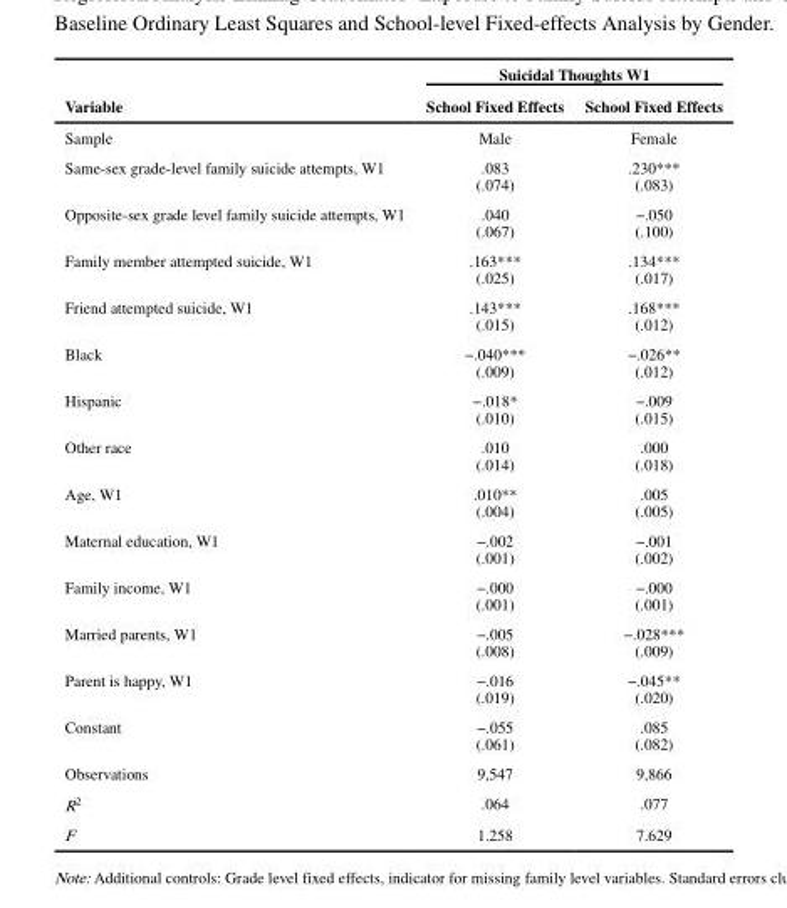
<table><thead><tr><td rowspan="2">Variable</td><td colspan="2">Suicidal Thoughts W1</td></tr><tr><td>School Fixed Effects</td><td>School Fixed Effects</td></tr></thead><tbody><tr><td>Sample</td><td>Male</td><td>Female</td></tr><tr><td>Same-sex grade-level family suicide attempts, W1</td><td>.083 (.074)</td><td>.230*** (.083)</td></tr><tr><td>Opposite-sex grade level family suicide attempts, W1</td><td>.040 (.067)</td><td>−.050 (.100)</td></tr><tr><td>Family member attempted suicide, W1</td><td>.163*** (.025)</td><td>.134*** (.017)</td></tr><tr><td>Friend attempted suicide, W1</td><td>.143*** (.015)</td><td>.168*** (.012)</td></tr><tr><td>Black</td><td>−.040*** (.009)</td><td>−.026** (.012)</td></tr><tr><td>Hispanic</td><td>−.018* (.010)</td><td>−.009 (.015)</td></tr><tr><td>Other race</td><td>.010 (.014)</td><td>.000 (.018)</td></tr><tr><td>Age, W1</td><td>.010** (.004)</td><td>.005 (.005)</td></tr><tr><td>Maternal education, W1</td><td>−.002 (.001)</td><td>−.001 (.002)</td></tr><tr><td>Family income, W1</td><td>−.000 (.001)</td><td>−.000 (.001)</td></tr><tr><td>Married parents, W1</td><td>−.005 (.008)</td><td>−.028*** (.009)</td></tr><tr><td>Parent is happy, W1</td><td>−.016 (.019)</td><td>−.045** (.020)</td></tr><tr><td>Constant</td><td>−.055 (.061)</td><td>.085 (.082)</td></tr><tr><td>Observations</td><td>9,547</td><td>9,866</td></tr><tr><td>R<sup>2</sup></td><td>.064</td><td>.077</td></tr><tr><td>F</td><td>1.258</td><td>7.629</td></tr></tbody></table>